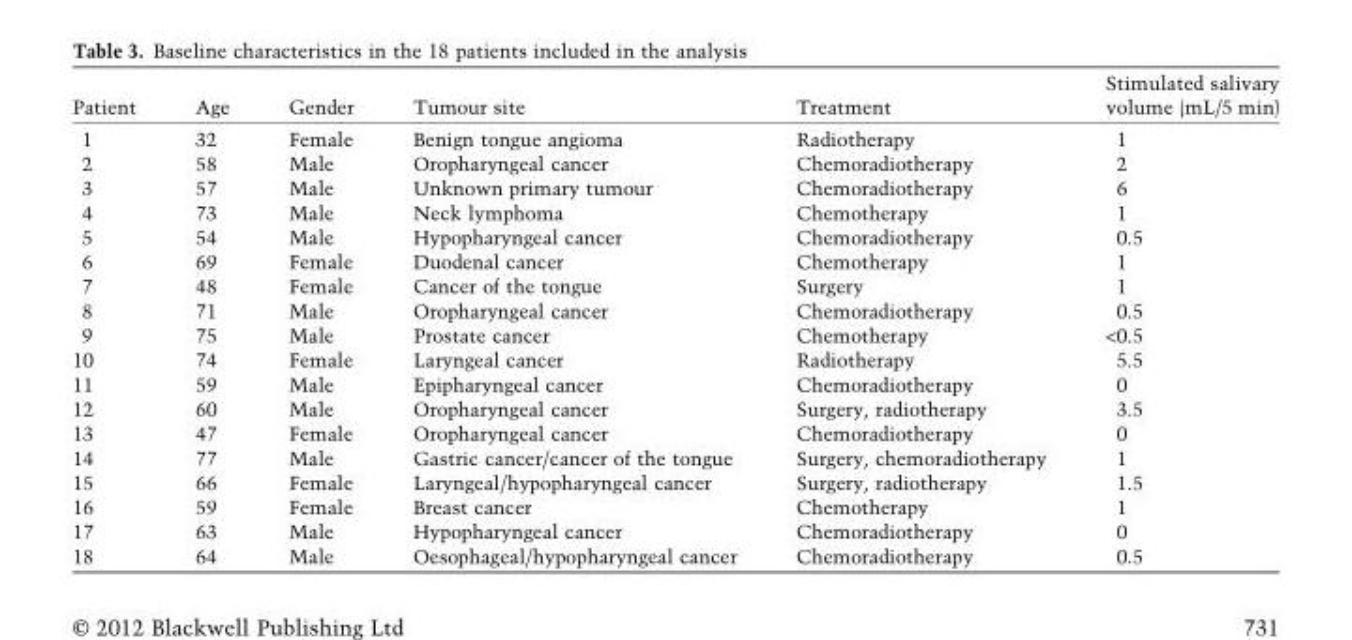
<table><thead><tr><td>Patient</td><td>Age</td><td>Gender</td><td>Tumour site</td><td>Treatment</td><td>Stimulated salivary volume (mL/5 min)</td></tr></thead><tbody><tr><td>1</td><td>32</td><td>Female</td><td>Benign tongue angioma</td><td>Radiotherapy</td><td>1</td></tr><tr><td>2</td><td>58</td><td>Male</td><td>Oropharyngeal cancer</td><td>Chemoradiotherapy</td><td>2</td></tr><tr><td>3</td><td>57</td><td>Male</td><td>Unknown primary tumour</td><td>Chemoradiotherapy</td><td>6</td></tr><tr><td>4</td><td>73</td><td>Male</td><td>Neck lymphoma</td><td>Chemotherapy</td><td>1</td></tr><tr><td>5</td><td>54</td><td>Male</td><td>Hypopharyngeal cancer</td><td>Chemoradiotherapy</td><td>0.5</td></tr><tr><td>6</td><td>69</td><td>Female</td><td>Duodenal cancer</td><td>Chemotherapy</td><td>1</td></tr><tr><td>7</td><td>48</td><td>Female</td><td>Cancer of the tongue</td><td>Surgery</td><td>1</td></tr><tr><td>8</td><td>71</td><td>Male</td><td>Oropharyngeal cancer</td><td>Chemoradiotherapy</td><td>0.5</td></tr><tr><td>9</td><td>75</td><td>Male</td><td>Prostate cancer</td><td>Chemotherapy</td><td>&lt;0.5</td></tr><tr><td>10</td><td>74</td><td>Female</td><td>Laryngeal cancer</td><td>Radiotherapy</td><td>5.5</td></tr><tr><td>11</td><td>59</td><td>Male</td><td>Epipharyngeal cancer</td><td>Chemoradiotherapy</td><td>0</td></tr><tr><td>12</td><td>60</td><td>Male</td><td>Oropharyngeal cancer</td><td>Surgery, radiotherapy</td><td>3.5</td></tr><tr><td>13</td><td>47</td><td>Female</td><td>Oropharyngeal cancer</td><td>Chemoradiotherapy</td><td>0</td></tr><tr><td>14</td><td>77</td><td>Male</td><td>Gastric cancer/cancer of the tongue</td><td>Surgery, chemoradiotherapy</td><td>1</td></tr><tr><td>15</td><td>66</td><td>Female</td><td>Laryngeal/hypopharyngeal cancer</td><td>Surgery, radiotherapy</td><td>1.5</td></tr><tr><td>16</td><td>59</td><td>Female</td><td>Breast cancer</td><td>Chemotherapy</td><td>1</td></tr><tr><td>17</td><td>63</td><td>Male</td><td>Hypopharyngeal cancer</td><td>Chemoradiotherapy</td><td>0</td></tr><tr><td>18</td><td>64</td><td>Male</td><td>Oesophageal/hypopharyngeal cancer</td><td>Chemoradiotherapy</td><td>0.5</td></tr></tbody></table>